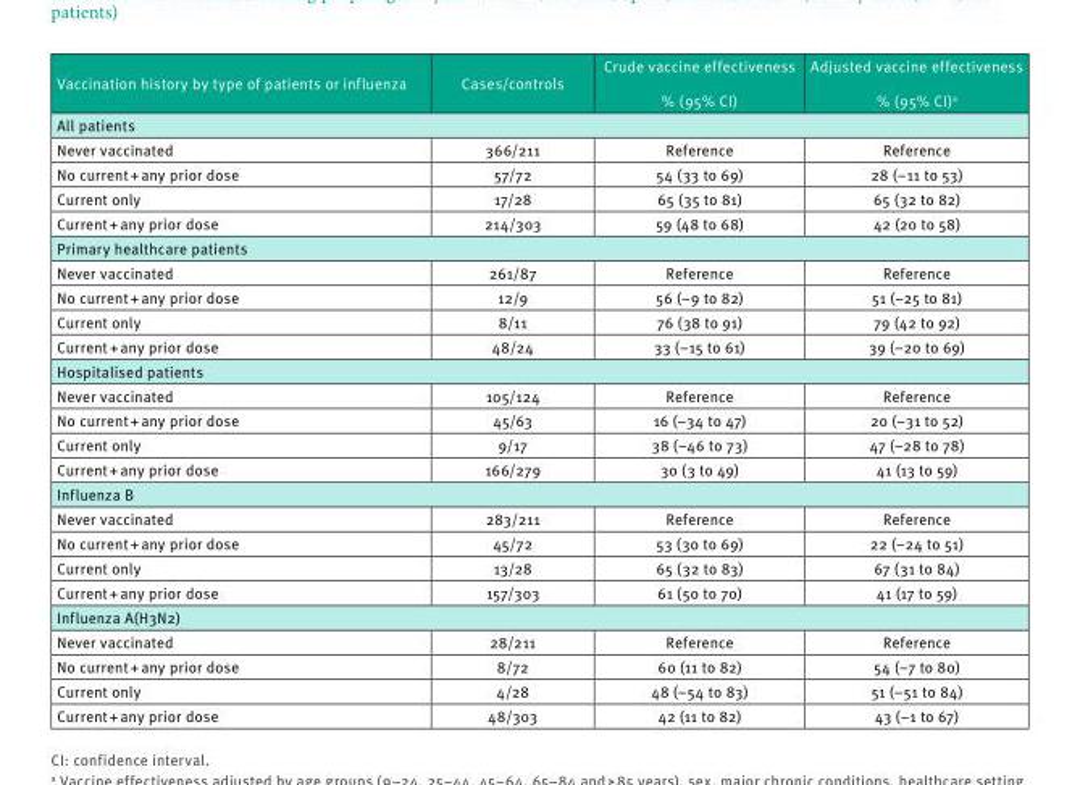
<table><thead><tr><td>Vaccination history by type of patients or influenza</td><td>Cases/controls</td><td>Crude vaccine effectiveness % (95% CI)</td><td>Adjusted vaccine effectiveness % (95% CI)<sup>a</sup></td></tr></thead><tbody><tr><td colspan="4">All patients</td></tr><tr><td>Never vaccinated</td><td>366/211</td><td>Reference</td><td>Reference</td></tr><tr><td>No current + any prior dose</td><td>57/72</td><td>54 (33 to 69)</td><td>28 (–11 to 53)</td></tr><tr><td>Current only</td><td>17/28</td><td>65 (35 to 81)</td><td>65 (32 to 82)</td></tr><tr><td>Current + any prior dose</td><td>214/303</td><td>59 (48 to 68)</td><td>42 (20 to 58)</td></tr><tr><td colspan="4">Primary healthcare patients</td></tr><tr><td>Never vaccinated</td><td>261/87</td><td>Reference</td><td>Reference</td></tr><tr><td>No current + any prior dose</td><td>12/9</td><td>56 (–9 to 82)</td><td>51 (–25 to 81)</td></tr><tr><td>Current only</td><td>8/11</td><td>76 (38 to 91)</td><td>79 (42 to 92)</td></tr><tr><td>Current + any prior dose</td><td>48/24</td><td>33 (–15 to 61)</td><td>39 (–20 to 69)</td></tr><tr><td colspan="4">Hospitalised patients</td></tr><tr><td>Never vaccinated</td><td>105/124</td><td>Reference</td><td>Reference</td></tr><tr><td>No current + any prior dose</td><td>45/63</td><td>16 (–34 to 47)</td><td>20 (–31 to 52)</td></tr><tr><td>Current only</td><td>9/17</td><td>38 (–46 to 73)</td><td>47 (–28 to 78)</td></tr><tr><td>Current + any prior dose</td><td>166/279</td><td>30 (3 to 49)</td><td>41 (13 to 59)</td></tr><tr><td colspan="4">Influenza B</td></tr><tr><td>Never vaccinated</td><td>283/211</td><td>Reference</td><td>Reference</td></tr><tr><td>No current + any prior dose</td><td>45/72</td><td>53 (30 to 69)</td><td>22 (–24 to 51)</td></tr><tr><td>Current only</td><td>13/28</td><td>65 (32 to 83)</td><td>67 (31 to 84)</td></tr><tr><td>Current + any prior dose</td><td>157/303</td><td>61 (50 to 70)</td><td>41 (17 to 59)</td></tr><tr><td colspan="4">Influenza A(H3N2)</td></tr><tr><td>Never vaccinated</td><td>28/211</td><td>Reference</td><td>Reference</td></tr><tr><td>No current + any prior dose</td><td>8/72</td><td>60 (11 to 82)</td><td>54 (–7 to 80)</td></tr><tr><td>Current only</td><td>4/28</td><td>48 (–54 to 83)</td><td>51 (–51 to 84)</td></tr><tr><td>Current + any prior dose</td><td>48/303</td><td>42 (11 to 82)</td><td>43 (–1 to 67)</td></tr></tbody></table>